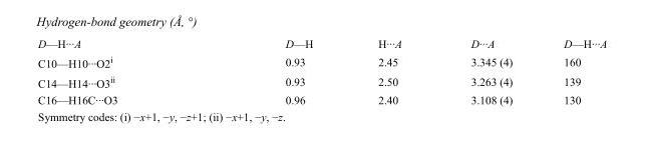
<table><tbody><tr><td>D—H···A</td><td>D—H</td><td>H···A</td><td>D···A</td><td>D—H···A</td></tr><tr><td>C10—H10···O2<sup>i</sup></td><td>0.93</td><td>2.45</td><td>3.345 (4)</td><td>160</td></tr><tr><td>C14—H14···O3<sup>ii</sup></td><td>0.93</td><td>2.50</td><td>3.263 (4)</td><td>139</td></tr><tr><td>C16—H16C···O3</td><td>0.96</td><td>2.40</td><td>3.108 (4)</td><td>130</td></tr></tbody></table>